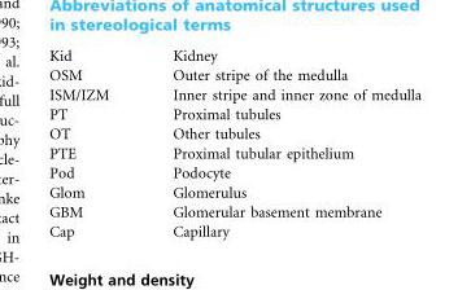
<table><tbody><tr><td>Kid</td><td>Kidney</td></tr><tr><td>OSM</td><td>Outer stripe of the medulla</td></tr><tr><td>ISM/IZM</td><td>Inner stripe and inner zone of medulla</td></tr><tr><td>PT</td><td>Proximal tubules</td></tr><tr><td>OT</td><td>Other tubules</td></tr><tr><td>PTE</td><td>Proximal tubular epithelium</td></tr><tr><td>Pod</td><td>Podocyte</td></tr><tr><td>Glom</td><td>Glomerulus</td></tr><tr><td>GBM</td><td>Glomerular basement membrane</td></tr><tr><td>Cap</td><td>Capillary</td></tr></tbody></table>